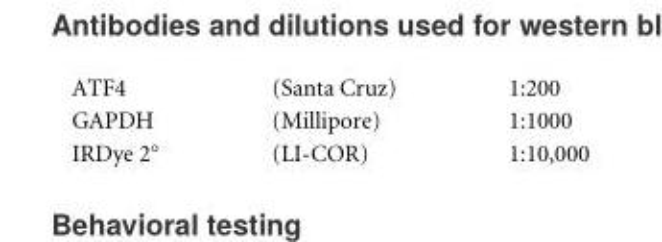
<table><tbody><tr><td>ATF4</td><td>(Santa Cruz)</td><td>1:200</td></tr><tr><td>GAPDH</td><td>(Millipore)</td><td>1:1000</td></tr><tr><td>IRDye 2◦</td><td>(LI-COR)</td><td>1:10,000</td></tr></tbody></table>